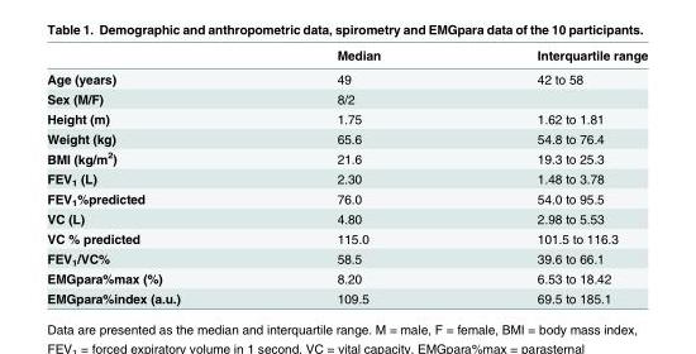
<table><thead><tr><td></td><td>Median</td><td>Interquartile range</td></tr></thead><tbody><tr><td>Age (years)</td><td>49</td><td>42 to 58</td></tr><tr><td>Sex (M/F)</td><td>8/2</td><td></td></tr><tr><td>Height (m)</td><td>1.75</td><td>1.62 to 1.81</td></tr><tr><td>Weight (kg)</td><td>65.6</td><td>54.8 to 76.4</td></tr><tr><td>BMI (kg/m<sup>2</sup>)</td><td>21.6</td><td>19.3 to 25.3</td></tr><tr><td>FEV<sub>1</sub> (L)</td><td>2.30</td><td>1.48 to 3.78</td></tr><tr><td>FEV<sub>1</sub>%predicted</td><td>76.0</td><td>54.0 to 95.5</td></tr><tr><td>VC (L)</td><td>4.80</td><td>2.98 to 5.53</td></tr><tr><td>VC % predicted</td><td>115.0</td><td>101.5 to 116.3</td></tr><tr><td>FEV<sub>1</sub>/VC%</td><td>58.5</td><td>39.6 to 66.1</td></tr><tr><td>EMGpara%max (%)</td><td>8.20</td><td>6.53 to 18.42</td></tr><tr><td>EMGpara%index (a.u.)</td><td>109.5</td><td>69.5 to 185.1</td></tr></tbody></table>